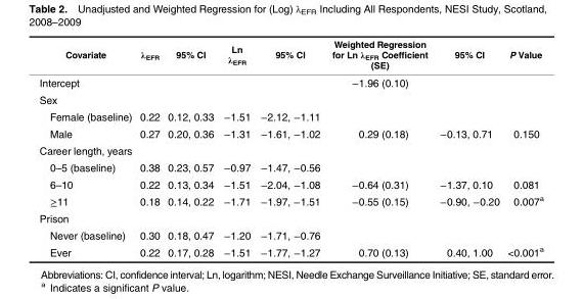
<table><thead><tr><td>Covariate</td><td>λ<sub>EFR</sub></td><td>95% CI</td><td>Ln λ<sub>EFR</sub></td><td>95% CI</td><td>Weighted Regression for Ln λ<sub>EFR</sub> Coefficient (SE)</td><td>95% CI</td><td>P Value</td></tr></thead><tbody><tr><td>Intercept</td><td></td><td></td><td></td><td></td><td>−1.96 (0.10)</td><td></td><td></td></tr><tr><td colspan="8">Sex</td></tr><tr><td>Female (baseline)</td><td>0.22</td><td>0.12, 0.33</td><td>−1.51</td><td>−2.12, −1.11</td><td></td><td></td><td></td></tr><tr><td>Male</td><td>0.27</td><td>0.20, 0.36</td><td>−1.31</td><td>−1.61, −1.02</td><td>0.29 (0.18)</td><td>−0.13, 0.71</td><td>0.150</td></tr><tr><td colspan="8">Career length, years</td></tr><tr><td>0–5 (baseline)</td><td>0.38</td><td>0.23, 0.57</td><td>−0.97</td><td>−1.47, −0.56</td><td></td><td></td><td></td></tr><tr><td>6–10</td><td>0.22</td><td>0.13, 0.34</td><td>−1.51</td><td>−2.04, −1.08</td><td>−0.64 (0.31)</td><td>−1.37, 0.10</td><td>0.081</td></tr><tr><td>≥11</td><td>0.18</td><td>0.14, 0.22</td><td>−1.71</td><td>−1.97, −1.51</td><td>−0.55 (0.15)</td><td>−0.90, −0.20</td><td>0.007<sup>a</sup></td></tr><tr><td colspan="8">Prison</td></tr><tr><td>Never (baseline)</td><td>0.30</td><td>0.18, 0.47</td><td>−1.20</td><td>−1.71, −0.76</td><td></td><td></td><td></td></tr><tr><td>Ever</td><td>0.22</td><td>0.17, 0.28</td><td>−1.51</td><td>−1.77, −1.27</td><td>0.70 (0.13)</td><td>0.40, 1.00</td><td>&lt;0.001<sup>a</sup></td></tr></tbody></table>